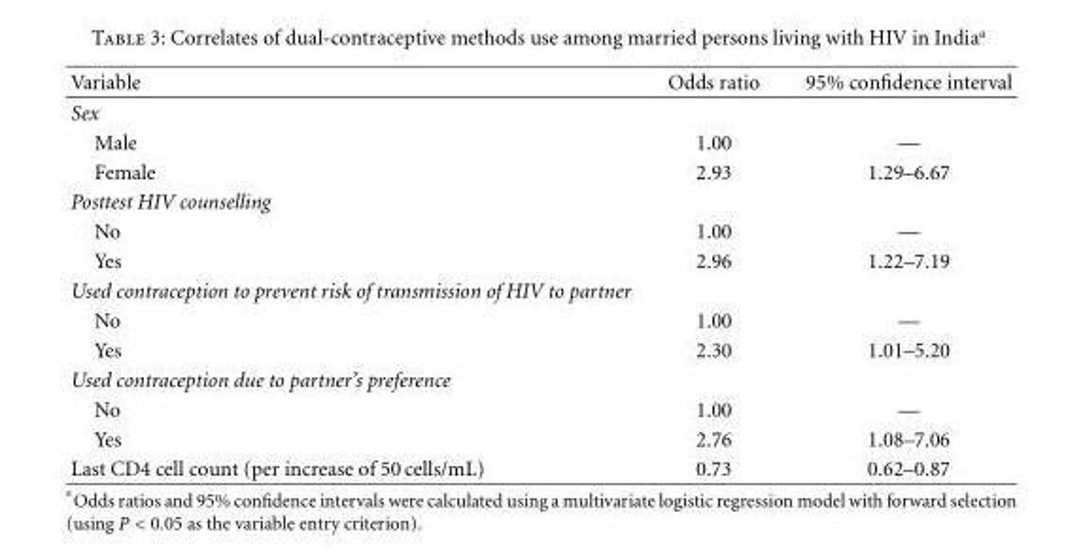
<table><thead><tr><td>Variable</td><td>Odds ratio</td><td>95% confidence interval</td></tr></thead><tbody><tr><td colspan="3">Sex</td></tr><tr><td>Male</td><td>1.00</td><td>—</td></tr><tr><td>Female</td><td>2.93</td><td>1.29–6.67</td></tr><tr><td colspan="3">Posttest HIV counselling</td></tr><tr><td>No</td><td>1.00</td><td>—</td></tr><tr><td>Yes</td><td>2.96</td><td>1.22–7.19</td></tr><tr><td colspan="3">Used contraception to prevent risk of transmission of HIV to partner</td></tr><tr><td>No</td><td>1.00</td><td>—</td></tr><tr><td>Yes</td><td>2.30</td><td>1.01–5.20</td></tr><tr><td colspan="3">Used contraception due to partner’s preference</td></tr><tr><td>No</td><td>1.00</td><td>—</td></tr><tr><td>Yes</td><td>2.76</td><td>1.08–7.06</td></tr><tr><td>Last CD4 cell count (per increase of 50 cells/mL)</td><td>0.73</td><td>0.62–0.87</td></tr></tbody></table>